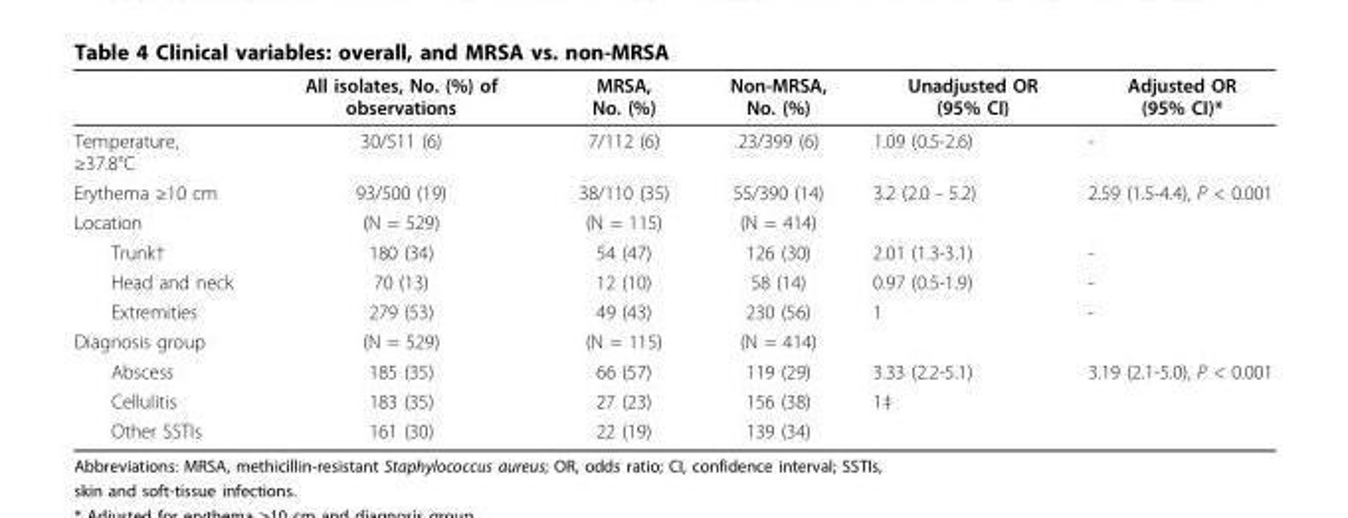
<table><thead><tr><td></td><td>All isolates, No. (%) of observations</td><td>MRSA, No. (%)</td><td>Non-MRSA, No. (%)</td><td>Unadjusted OR (95% CI)</td><td>Adjusted OR (95% CI)*</td></tr></thead><tbody><tr><td>Temperature, ≥37.8°C</td><td>30/511 (6)</td><td>7/112 (6)</td><td>23/399 (6)</td><td>1.09 (0.5-2.6)</td><td>-</td></tr><tr><td>Erythema ≥10 cm</td><td>93/500 (19)</td><td>38/110 (35)</td><td>55/390 (14)</td><td>3.2 (2.0 - 5.2)</td><td>2.59 (1.5-4.4), P &lt; 0.001</td></tr><tr><td>Location</td><td>(N = 529)</td><td>(N = 115)</td><td>(N = 414)</td><td></td><td></td></tr><tr><td>Trunk†</td><td>180 (34)</td><td>54 (47)</td><td>126 (30)</td><td>2.01 (1.3-3.1)</td><td>-</td></tr><tr><td>Head and neck</td><td>70 (13)</td><td>12 (10)</td><td>58 (14)</td><td>0.97 (0.5-1.9)</td><td>-</td></tr><tr><td>Extremities</td><td>279 (53)</td><td>49 (43)</td><td>230 (56)</td><td>1</td><td>-</td></tr><tr><td>Diagnosis group</td><td>(N = 529)</td><td>(N = 115)</td><td>(N = 414)</td><td></td><td></td></tr><tr><td>Abscess</td><td>185 (35)</td><td>66 (57)</td><td>119 (29)</td><td>3.33 (2.2-5.1)</td><td>3.19 (2.1-5.0), P &lt; 0.001</td></tr><tr><td>Cellulitis</td><td>183 (35)</td><td>27 (23)</td><td>156 (38)</td><td>1‡</td><td></td></tr><tr><td>Other SSTIs</td><td>161 (30)</td><td>22 (19)</td><td>139 (34)</td><td></td><td></td></tr></tbody></table>